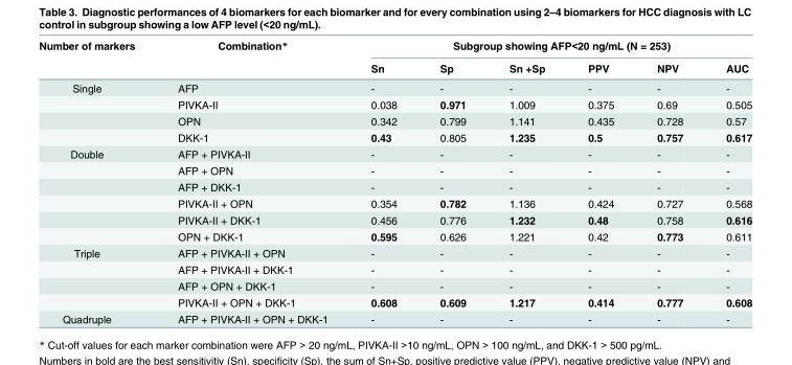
<table><thead><tr><td rowspan="2">Number of markers</td><td rowspan="2">Combination*</td><td colspan="6">Subgroup showing AFP&lt;20 ng/mL (N = 253)</td></tr><tr><td>Sn</td><td>Sp</td><td>Sn +Sp</td><td>PPV</td><td>NPV</td><td>AUC</td></tr></thead><tbody><tr><td rowspan="4">Single</td><td>AFP</td><td>-</td><td>-</td><td>-</td><td>-</td><td>-</td><td>-</td></tr><tr><td>PIVKA-II</td><td>0.038</td><td>0.971</td><td>1.009</td><td>0.375</td><td>0.69</td><td>0.505</td></tr><tr><td>OPN</td><td>0.342</td><td>0.799</td><td>1.141</td><td>0.435</td><td>0.728</td><td>0.57</td></tr><tr><td>DKK-1</td><td>0.43</td><td>0.805</td><td>1.235</td><td>0.5</td><td>0.757</td><td>0.617</td></tr><tr><td rowspan="6">Double</td><td>AFP + PIVKA-II</td><td>-</td><td>-</td><td>-</td><td>-</td><td>-</td><td>-</td></tr><tr><td>AFP + OPN</td><td>-</td><td>-</td><td>-</td><td>-</td><td>-</td><td>-</td></tr><tr><td>AFP + DKK-1</td><td>-</td><td>-</td><td>-</td><td>-</td><td>-</td><td>-</td></tr><tr><td>PIVKA-II + OPN</td><td>0.354</td><td>0.782</td><td>1.136</td><td>0.424</td><td>0.727</td><td>0.568</td></tr><tr><td>PIVKA-II + DKK-1</td><td>0.456</td><td>0.776</td><td>1.232</td><td>0.48</td><td>0.758</td><td>0.616</td></tr><tr><td>OPN + DKK-1</td><td>0.595</td><td>0.626</td><td>1.221</td><td>0.42</td><td>0.773</td><td>0.611</td></tr><tr><td rowspan="4">Triple</td><td>AFP + PIVKA-II + OPN</td><td>-</td><td>-</td><td>-</td><td>-</td><td>-</td><td>-</td></tr><tr><td>AFP + PIVKA-II + DKK-1</td><td>-</td><td>-</td><td>-</td><td>-</td><td>-</td><td>-</td></tr><tr><td>AFP + OPN + DKK-1</td><td>-</td><td>-</td><td>-</td><td>-</td><td>-</td><td>-</td></tr><tr><td>PIVKA-II + OPN + DKK-1</td><td>0.608</td><td>0.609</td><td>1.217</td><td>0.414</td><td>0.777</td><td>0.608</td></tr><tr><td>Quadruple</td><td>AFP + PIVKA-II + OPN + DKK-1</td><td>-</td><td>-</td><td>-</td><td>-</td><td>-</td><td>-</td></tr></tbody></table>